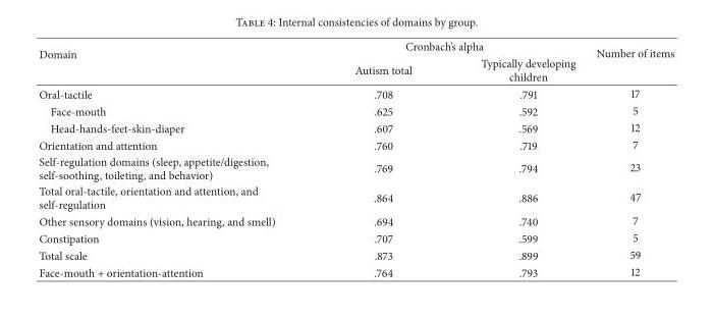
<table><thead><tr><td rowspan="2">Domain</td><td colspan="2">Cronbach’s alpha</td><td rowspan="2">Number of items</td></tr><tr><td>Autism total</td><td>Typically developing children</td></tr></thead><tbody><tr><td>Oral-tactile</td><td>.708</td><td>.791</td><td>17</td></tr><tr><td>Face-mouth</td><td>.625</td><td>.592</td><td>5</td></tr><tr><td>Head-hands-feet-skin-diaper</td><td>.607</td><td>.569</td><td>12</td></tr><tr><td>Orientation and attention</td><td>.760</td><td>.719</td><td>7</td></tr><tr><td>Self-regulation domains (sleep, appetite/digestion, self-soothing, toileting, and behavior)</td><td>.769</td><td>.794</td><td>23</td></tr><tr><td>Total oral-tactile, orientation and attention, and self-regulation</td><td>.864</td><td>.886</td><td>47</td></tr><tr><td>Other sensory domains (vision, hearing, and smell)</td><td>.694</td><td>.740</td><td>7</td></tr><tr><td>Constipation</td><td>.707</td><td>.599</td><td>5</td></tr><tr><td>Total scale</td><td>.873</td><td>.899</td><td>59</td></tr><tr><td>Face-mouth + orientation-attention</td><td>.764</td><td>.793</td><td>12</td></tr></tbody></table>